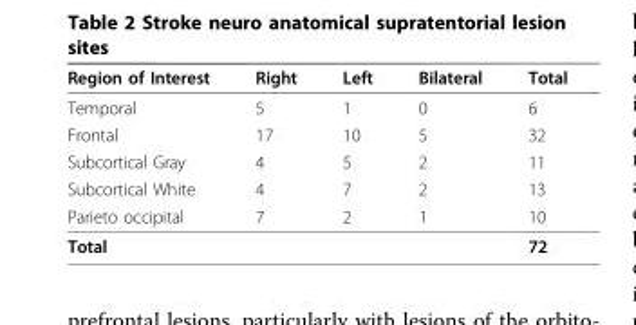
<table><thead><tr><td>Region of Interest</td><td>Right</td><td>Left</td><td>Bilateral</td><td>Total</td></tr></thead><tbody><tr><td>Temporal</td><td>5</td><td>1</td><td>0</td><td>6</td></tr><tr><td>Frontal</td><td>17</td><td>10</td><td>5</td><td>32</td></tr><tr><td>Subcortical Gray</td><td>4</td><td>5</td><td>2</td><td>11</td></tr><tr><td>Subcortical White</td><td>4</td><td>7</td><td>2</td><td>13</td></tr><tr><td>Parieto occipital</td><td>7</td><td>2</td><td>1</td><td>10</td></tr><tr><td>Total</td><td></td><td></td><td></td><td>72</td></tr></tbody></table>